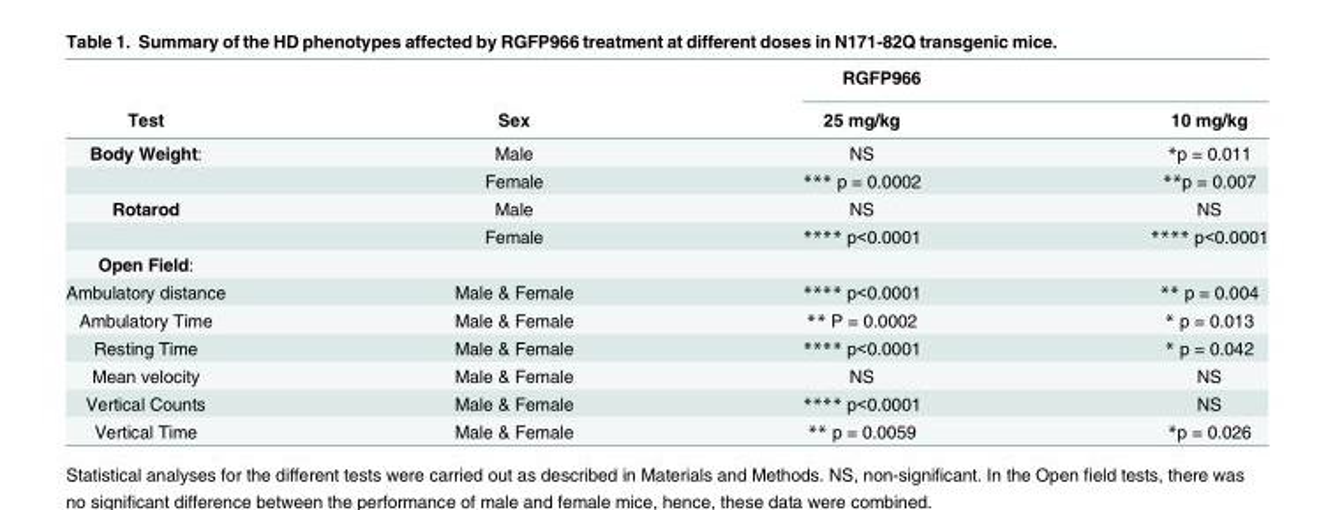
<table><thead><tr><td rowspan="2">Test</td><td rowspan="2">Sex</td><td rowspan="2">RGFP966 25 mg/kg</td><td rowspan="2">10 mg/kg</td></tr><tr></tr></thead><tbody><tr><td rowspan="2">Body Weight:</td><td>Male</td><td>NS</td><td>*p = 0.011</td></tr><tr><td>Female</td><td>*** p = 0.0002</td><td>**p = 0.007</td></tr><tr><td rowspan="2">Rotarod</td><td>Male</td><td>NS</td><td>NS</td></tr><tr><td>Female</td><td>**** p&lt;0.0001</td><td>**** p&lt;0.0001</td></tr><tr><td colspan="4">Open Field:</td></tr><tr><td>Ambulatory distance</td><td>Male &amp; Female</td><td>**** p&lt;0.0001</td><td>** p = 0.004</td></tr><tr><td>Ambulatory Time</td><td>Male &amp; Female</td><td>** P = 0.0002</td><td>* p = 0.013</td></tr><tr><td>Resting Time</td><td>Male &amp; Female</td><td>**** p&lt;0.0001</td><td>* p = 0.042</td></tr><tr><td>Mean velocity</td><td>Male &amp; Female</td><td>NS</td><td>NS</td></tr><tr><td>Vertical Counts</td><td>Male &amp; Female</td><td>**** p&lt;0.0001</td><td>NS</td></tr><tr><td>Vertical Time</td><td>Male &amp; Female</td><td>** p = 0.0059</td><td>*p = 0.026</td></tr></tbody></table>